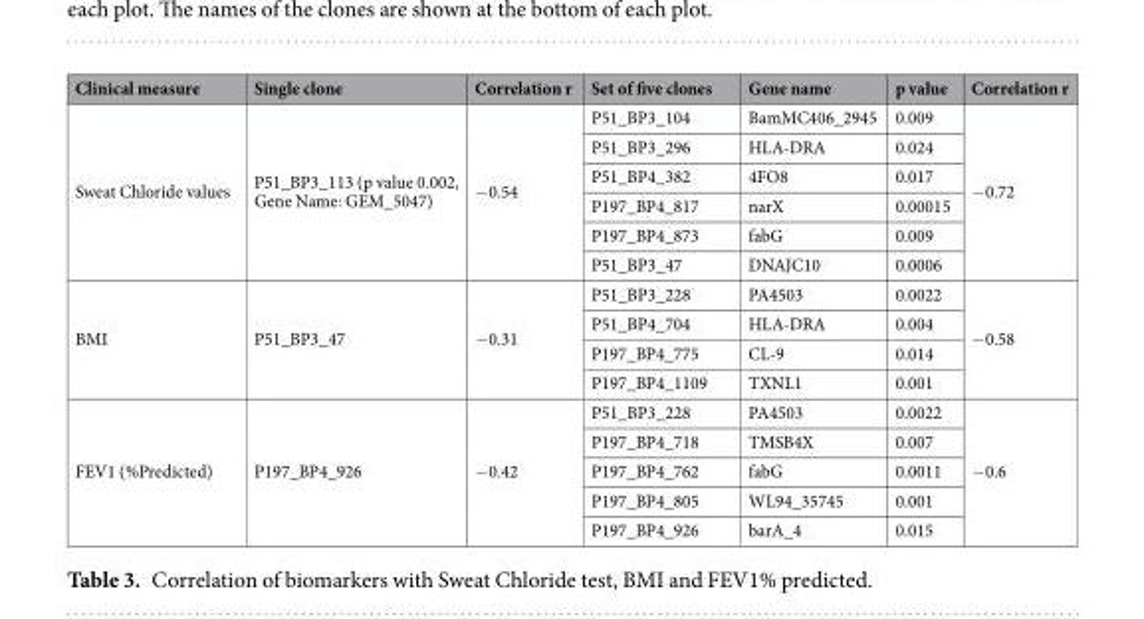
<table><thead><tr><td>Clinical measure</td><td>Single clone</td><td>Correlation r</td><td>Set of five clones</td><td>Gene name</td><td>p value</td><td>Correlation r</td></tr></thead><tbody><tr><td rowspan="6">Sweat Chloride values</td><td rowspan="6">P51_BP3_113 (p value 0.002, Gene Name: GEM_5047)</td><td rowspan="6">−0.54</td><td>P51_BP3_104</td><td>BamMC406_2945</td><td>0.009</td><td rowspan="6">−0.72</td></tr><tr><td>P51_BP3_296</td><td>HLA-DRA</td><td>0.024</td></tr><tr><td>P51_BP4_382</td><td>4FO8</td><td>0.017</td></tr><tr><td>P197_BP4_817</td><td>narX</td><td>0.00015</td></tr><tr><td>P197_BP4_873</td><td>fabG</td><td>0.009</td></tr><tr><td>P51_BP3_47</td><td>DNAJC10</td><td>0.0006</td></tr><tr><td rowspan="4">BMI</td><td rowspan="4">P51_BP3_47</td><td rowspan="4">−0.31</td><td>P51_BP3_228</td><td>PA4503</td><td>0.0022</td><td rowspan="4">−0.58</td></tr><tr><td>P51_BP4_704</td><td>HLA-DRA</td><td>0.004</td></tr><tr><td>P197_BP4_775</td><td>CL-9</td><td>0.014</td></tr><tr><td>P197_BP4_1109</td><td>TXNL1</td><td>0.001</td></tr><tr><td rowspan="5">FEV1 (%Predicted)</td><td rowspan="5">P197_BP4_926</td><td rowspan="5">−0.42</td><td>P51_BP3_228</td><td>PA4503</td><td>0.0022</td><td rowspan="5">−0.6</td></tr><tr><td>P197_BP4_718</td><td>TMSB4X</td><td>0.007</td></tr><tr><td>P197_BP4_762</td><td>fabG</td><td>0.0011</td></tr><tr><td>P197_BP4_805</td><td>WL94_35745</td><td>0.001</td></tr><tr><td>P197_BP4_926</td><td>barA_4</td><td>0.015</td></tr></tbody></table>